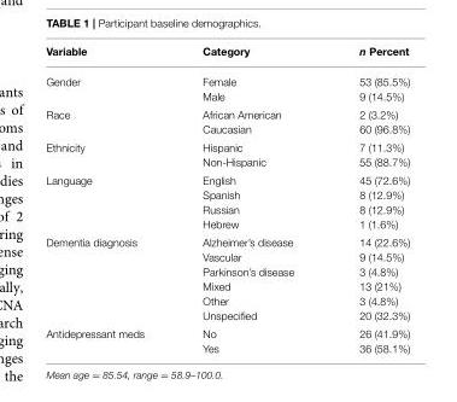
<table><thead><tr><td>Variable</td><td>Category</td><td>n Percent</td></tr></thead><tbody><tr><td>Gender</td><td>Female Male</td><td>53 (85.5%) 9 (14.5%)</td></tr><tr><td>Race</td><td>African American Caucasian</td><td>2 (3.2%) 60 (96.8%)</td></tr><tr><td>Ethnicity</td><td>Hispanic Non-Hispanic</td><td>7 (11.3%) 55 (88.7%)</td></tr><tr><td>Language</td><td>English Spanish Russian Hebrew</td><td>45 (72.6%) 8 (12.9%) 8 (12.9%) 1 (1.6%)</td></tr><tr><td>Dementia diagnosis</td><td>Alzheimer’s disease Vascular Parkinson’s disease Mixed Other Unspecified</td><td>14 (22.6%) 9 (14.5%) 3 (4.8%) 13 (21%) 3 (4.8%) 20 (32.3%)</td></tr><tr><td>Antidepressant meds</td><td>No Yes</td><td>26 (41.9%) 36 (58.1%)</td></tr></tbody></table>